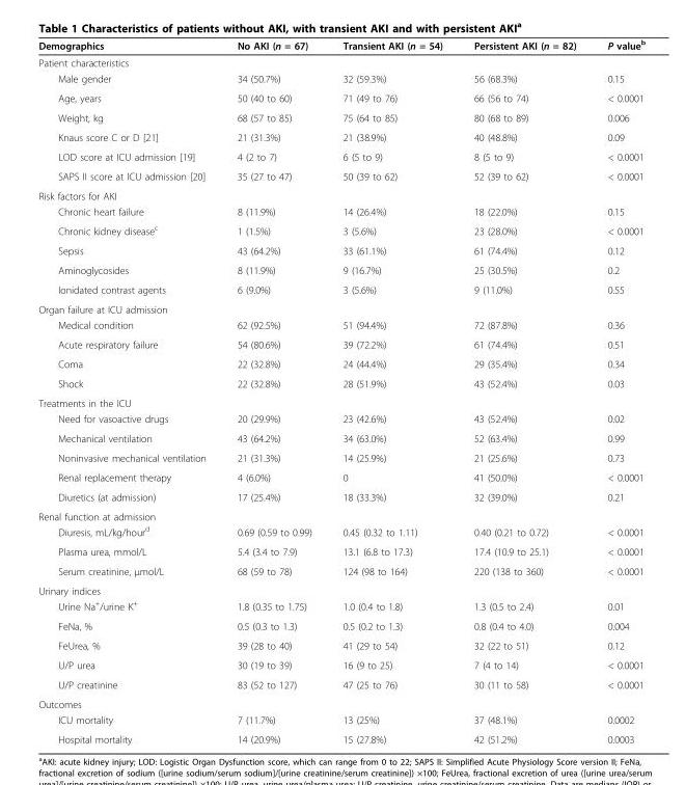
<table><thead><tr><td>Demographics</td><td>No AKI (n = 67)</td><td>Transient AKI (n = 54)</td><td>Persistent AKI (n = 82)</td><td>P value<sup>b</sup></td></tr></thead><tbody><tr><td colspan="5">Patient characteristics</td></tr><tr><td>Male gender</td><td>34 (50.7%)</td><td>32 (59.3%)</td><td>56 (68.3%)</td><td>0.15</td></tr><tr><td>Age, years</td><td>50 (40 to 60)</td><td>71 (49 to 76)</td><td>66 (56 to 74)</td><td>&lt; 0.0001</td></tr><tr><td>Weight, kg</td><td>68 (57 to 85)</td><td>75 (64 to 85)</td><td>80 (68 to 89)</td><td>0.006</td></tr><tr><td>Knaus score C or D [21]</td><td>21 (31.3%)</td><td>21 (38.9%)</td><td>40 (48.8%)</td><td>0.09</td></tr><tr><td>LOD score at ICU admission [19]</td><td>4 (2 to 7)</td><td>6 (5 to 9)</td><td>8 (5 to 9)</td><td>&lt; 0.0001</td></tr><tr><td>SAPS II score at ICU admission [20]</td><td>35 (27 to 47)</td><td>50 (39 to 62)</td><td>52 (39 to 62)</td><td>&lt; 0.0001</td></tr><tr><td colspan="5">Risk factors for AKI</td></tr><tr><td>Chronic heart failure</td><td>8 (11.9%)</td><td>14 (26.4%)</td><td>18 (22.0%)</td><td>0.15</td></tr><tr><td>Chronic kidney disease<sup>c</sup></td><td>1 (1.5%)</td><td>3 (5.6%)</td><td>23 (28.0%)</td><td>&lt; 0.0001</td></tr><tr><td>Sepsis</td><td>43 (64.2%)</td><td>33 (61.1%)</td><td>61 (74.4%)</td><td>0.12</td></tr><tr><td>Aminoglycosides</td><td>8 (11.9%)</td><td>9 (16.7%)</td><td>25 (30.5%)</td><td>0.2</td></tr><tr><td>Ionidated contrast agents</td><td>6 (9.0%)</td><td>3 (5.6%)</td><td>9 (11.0%)</td><td>0.55</td></tr><tr><td colspan="5">Organ failure at ICU admission</td></tr><tr><td>Medical condition</td><td>62 (92.5%)</td><td>51 (94.4%)</td><td>72 (87.8%)</td><td>0.36</td></tr><tr><td>Acute respiratory failure</td><td>54 (80.6%)</td><td>39 (72.2%)</td><td>61 (74.4%)</td><td>0.51</td></tr><tr><td>Coma</td><td>22 (32.8%)</td><td>24 (44.4%)</td><td>29 (35.4%)</td><td>0.34</td></tr><tr><td>Shock</td><td>22 (32.8%)</td><td>28 (51.9%)</td><td>43 (52.4%)</td><td>0.03</td></tr><tr><td colspan="5">Treatments in the ICU</td></tr><tr><td>Need for vasoactive drugs</td><td>20 (29.9%)</td><td>23 (42.6%)</td><td>43 (52.4%)</td><td>0.02</td></tr><tr><td>Mechanical ventilation</td><td>43 (64.2%)</td><td>34 (63.0%)</td><td>52 (63.4%)</td><td>0.99</td></tr><tr><td>Noninvasive mechanical ventilation</td><td>21 (31.3%)</td><td>14 (25.9%)</td><td>21 (25.6%)</td><td>0.73</td></tr><tr><td>Renal replacement therapy</td><td>4 (6.0%)</td><td>0</td><td>41 (50.0%)</td><td>&lt; 0.0001</td></tr><tr><td>Diuretics (at admission)</td><td>17 (25.4%)</td><td>18 (33.3%)</td><td>32 (39.0%)</td><td>0.21</td></tr><tr><td colspan="5">Renal function at admission</td></tr><tr><td>Diuresis, mL/kg/hour<sup>d</sup></td><td>0.69 (0.59 to 0.99)</td><td>0.45 (0.32 to 1.11)</td><td>0.40 (0.21 to 0.72)</td><td>&lt; 0.0001</td></tr><tr><td>Plasma urea, mmol/L</td><td>5.4 (3.4 to 7.9)</td><td>13.1 (6.8 to 17.3)</td><td>17.4 (10.9 to 25.1)</td><td>&lt; 0.0001</td></tr><tr><td>Serum creatinine, μmol/L</td><td>68 (59 to 78)</td><td>124 (98 to 164)</td><td>220 (138 to 360)</td><td>&lt; 0.0001</td></tr><tr><td colspan="5">Urinary indices</td></tr><tr><td>Urine Na<sup>+</sup>/urine K<sup>+</sup></td><td>1.8 (0.35 to 1.75)</td><td>1.0 (0.4 to 1.8)</td><td>1.3 (0.5 to 2.4)</td><td>0.01</td></tr><tr><td>FeNa, %</td><td>0.5 (0.3 to 1.3)</td><td>0.5 (0.2 to 1.3)</td><td>0.8 (0.4 to 4.0)</td><td>0.004</td></tr><tr><td>FeUrea, %</td><td>39 (28 to 40)</td><td>41 (29 to 54)</td><td>32 (22 to 51)</td><td>0.12</td></tr><tr><td>U/P urea</td><td>30 (19 to 39)</td><td>16 (9 to 25)</td><td>7 (4 to 14)</td><td>&lt; 0.0001</td></tr><tr><td>U/P creatinine</td><td>83 (52 to 127)</td><td>47 (25 to 76)</td><td>30 (11 to 58)</td><td>&lt; 0.0001</td></tr><tr><td colspan="5">Outcomes</td></tr><tr><td>ICU mortality</td><td>7 (11.7%)</td><td>13 (25%)</td><td>37 (48.1%)</td><td>0.0002</td></tr><tr><td>Hospital mortality</td><td>14 (20.9%)</td><td>15 (27.8%)</td><td>42 (51.2%)</td><td>0.0003</td></tr></tbody></table>